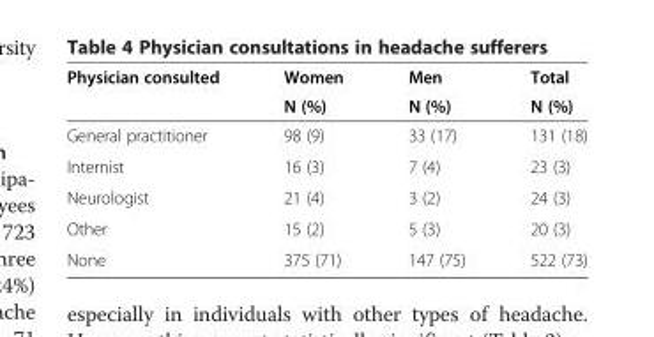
<table><thead><tr><td rowspan="2">Physician consulted</td><td rowspan="2">Women N (%)</td><td rowspan="2">Men N (%)</td><td rowspan="2">Total N (%)</td></tr><tr></tr></thead><tbody><tr><td>General practitioner</td><td>98 (9)</td><td>33 (17)</td><td>131 (18)</td></tr><tr><td>Internist</td><td>16 (3)</td><td>7 (4)</td><td>23 (3)</td></tr><tr><td>Neurologist</td><td>21 (4)</td><td>3 (2)</td><td>24 (3)</td></tr><tr><td>Other</td><td>15 (2)</td><td>5 (3)</td><td>20 (3)</td></tr><tr><td>None</td><td>375 (71)</td><td>147 (75)</td><td>522 (73)</td></tr></tbody></table>